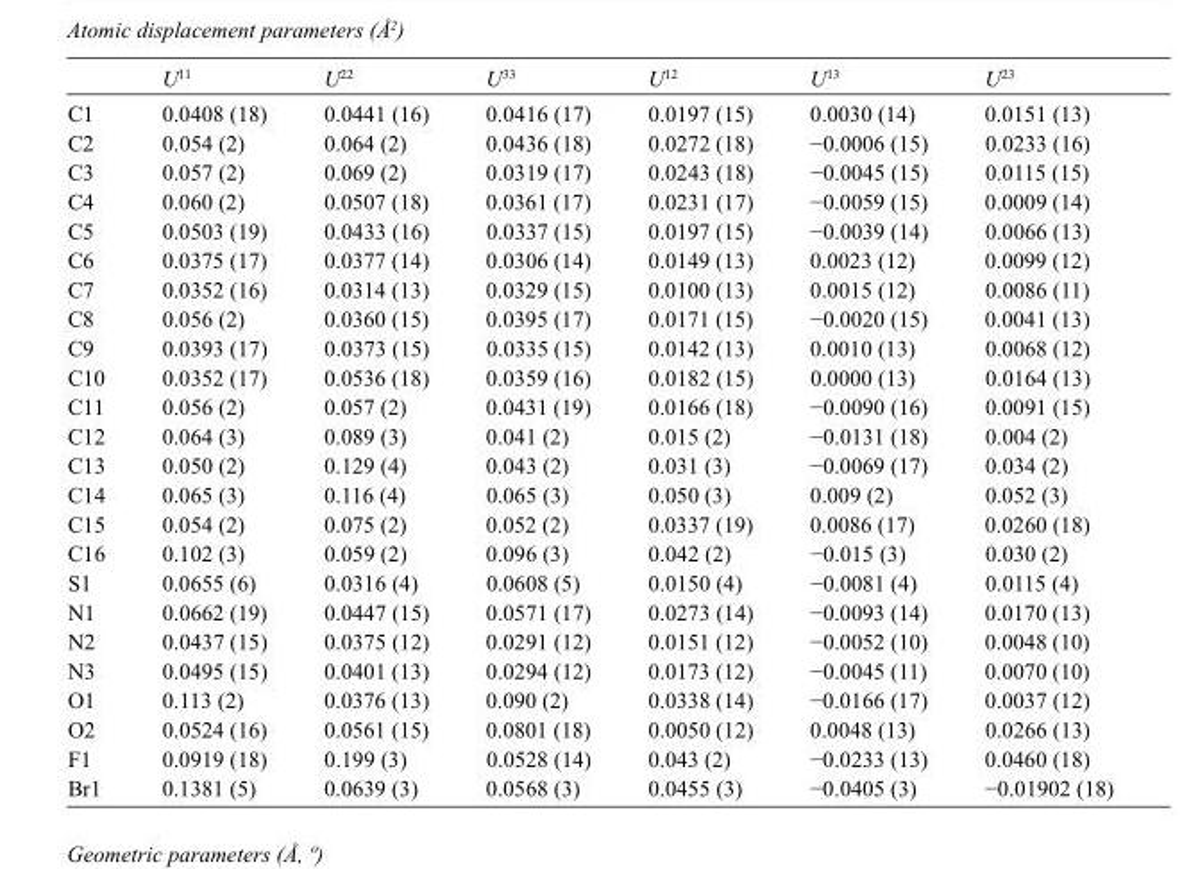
<table><thead><tr><td></td><td>U<sup>11</sup></td><td>U<sup>22</sup></td><td>U<sup>33</sup></td><td>U<sup>12</sup></td><td>U<sup>13</sup></td><td>U<sup>23</sup></td></tr></thead><tbody><tr><td>C1</td><td>0.0408 (18)</td><td>0.0441 (16)</td><td>0.0416 (17)</td><td>0.0197 (15)</td><td>0.0030 (14)</td><td>0.0151 (13)</td></tr><tr><td>C2</td><td>0.054 (2)</td><td>0.064 (2)</td><td>0.0436 (18)</td><td>0.0272 (18)</td><td>−0.0006 (15)</td><td>0.0233 (16)</td></tr><tr><td>C3</td><td>0.057 (2)</td><td>0.069 (2)</td><td>0.0319 (17)</td><td>0.0243 (18)</td><td>−0.0045 (15)</td><td>0.0115 (15)</td></tr><tr><td>C4</td><td>0.060 (2)</td><td>0.0507 (18)</td><td>0.0361 (17)</td><td>0.0231 (17)</td><td>−0.0059 (15)</td><td>0.0009 (14)</td></tr><tr><td>C5</td><td>0.0503 (19)</td><td>0.0433 (16)</td><td>0.0337 (15)</td><td>0.0197 (15)</td><td>−0.0039 (14)</td><td>0.0066 (13)</td></tr><tr><td>C6</td><td>0.0375 (17)</td><td>0.0377 (14)</td><td>0.0306 (14)</td><td>0.0149 (13)</td><td>0.0023 (12)</td><td>0.0099 (12)</td></tr><tr><td>C7</td><td>0.0352 (16)</td><td>0.0314 (13)</td><td>0.0329 (15)</td><td>0.0100 (13)</td><td>0.0015 (12)</td><td>0.0086 (11)</td></tr><tr><td>C8</td><td>0.056 (2)</td><td>0.0360 (15)</td><td>0.0395 (17)</td><td>0.0171 (15)</td><td>−0.0020 (15)</td><td>0.0041 (13)</td></tr><tr><td>C9</td><td>0.0393 (17)</td><td>0.0373 (15)</td><td>0.0335 (15)</td><td>0.0142 (13)</td><td>0.0010 (13)</td><td>0.0068 (12)</td></tr><tr><td>C10</td><td>0.0352 (17)</td><td>0.0536 (18)</td><td>0.0359 (16)</td><td>0.0182 (15)</td><td>0.0000 (13)</td><td>0.0164 (13)</td></tr><tr><td>C11</td><td>0.056 (2)</td><td>0.057 (2)</td><td>0.0431 (19)</td><td>0.0166 (18)</td><td>−0.0090 (16)</td><td>0.0091 (15)</td></tr><tr><td>C12</td><td>0.064 (3)</td><td>0.089 (3)</td><td>0.041 (2)</td><td>0.015 (2)</td><td>−0.0131 (18)</td><td>0.004 (2)</td></tr><tr><td>C13</td><td>0.050 (2)</td><td>0.129 (4)</td><td>0.043 (2)</td><td>0.031 (3)</td><td>−0.0069 (17)</td><td>0.034 (2)</td></tr><tr><td>C14</td><td>0.065 (3)</td><td>0.116 (4)</td><td>0.065 (3)</td><td>0.050 (3)</td><td>0.009 (2)</td><td>0.052 (3)</td></tr><tr><td>C15</td><td>0.054 (2)</td><td>0.075 (2)</td><td>0.052 (2)</td><td>0.0337 (19)</td><td>0.0086 (17)</td><td>0.0260 (18)</td></tr><tr><td>C16</td><td>0.102 (3)</td><td>0.059 (2)</td><td>0.096 (3)</td><td>0.042 (2)</td><td>−0.015 (3)</td><td>0.030 (2)</td></tr><tr><td>S1</td><td>0.0655 (6)</td><td>0.0316 (4)</td><td>0.0608 (5)</td><td>0.0150 (4)</td><td>−0.0081 (4)</td><td>0.0115 (4)</td></tr><tr><td>N1</td><td>0.0662 (19)</td><td>0.0447 (15)</td><td>0.0571 (17)</td><td>0.0273 (14)</td><td>−0.0093 (14)</td><td>0.0170 (13)</td></tr><tr><td>N2</td><td>0.0437 (15)</td><td>0.0375 (12)</td><td>0.0291 (12)</td><td>0.0151 (12)</td><td>−0.0052 (10)</td><td>0.0048 (10)</td></tr><tr><td>N3</td><td>0.0495 (15)</td><td>0.0401 (13)</td><td>0.0294 (12)</td><td>0.0173 (12)</td><td>−0.0045 (11)</td><td>0.0070 (10)</td></tr><tr><td>O1</td><td>0.113 (2)</td><td>0.0376 (13)</td><td>0.090 (2)</td><td>0.0338 (14)</td><td>−0.0166 (17)</td><td>0.0037 (12)</td></tr><tr><td>O2</td><td>0.0524 (16)</td><td>0.0561 (15)</td><td>0.0801 (18)</td><td>0.0050 (12)</td><td>0.0048 (13)</td><td>0.0266 (13)</td></tr><tr><td>F1</td><td>0.0919 (18)</td><td>0.199 (3)</td><td>0.0528 (14)</td><td>0.043 (2)</td><td>−0.0233 (13)</td><td>0.0460 (18)</td></tr><tr><td>Br1</td><td>0.1381 (5)</td><td>0.0639 (3)</td><td>0.0568 (3)</td><td>0.0455 (3)</td><td>−0.0405 (3)</td><td>−0.01902 (18)</td></tr></tbody></table>